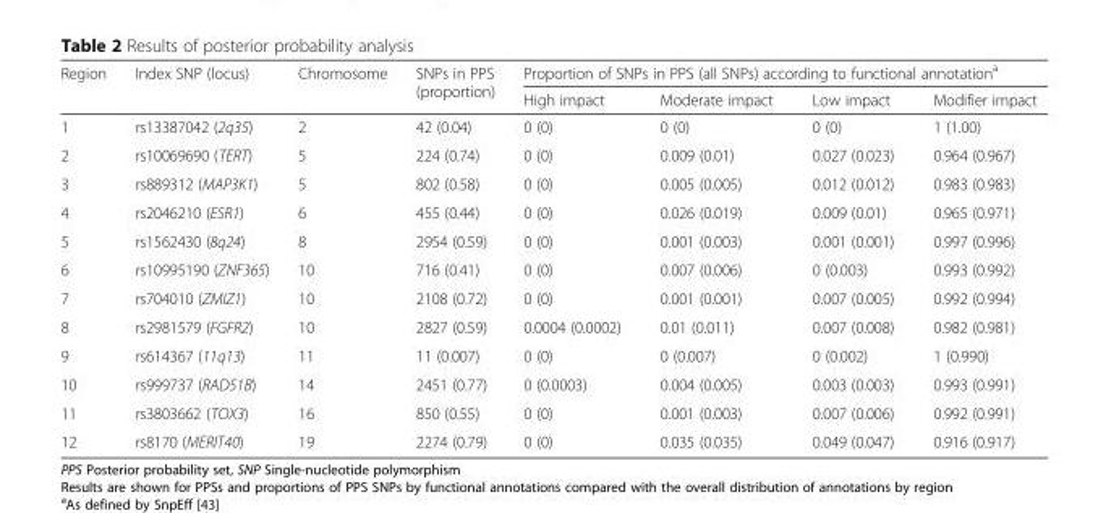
<table><thead><tr><td rowspan="2">Region</td><td rowspan="2">Index SNP (locus)</td><td rowspan="2">Chromosome</td><td rowspan="2">SNPs in PPS (proportion)</td><td colspan="4">Proportion of SNPs in PPS (all SNPs) according to functional annotation<sup>a</sup></td></tr><tr><td>High impact</td><td>Moderate impact</td><td>Low impact</td><td>Modifier impact</td></tr></thead><tbody><tr><td>1</td><td>rs13387042 (2q35)</td><td>2</td><td>42 (0.04)</td><td>0 (0)</td><td>0 (0)</td><td>0 (0)</td><td>1 (1.00)</td></tr><tr><td>2</td><td>rs10069690 (TERT)</td><td>5</td><td>224 (0.74)</td><td>0 (0)</td><td>0.009 (0.01)</td><td>0.027 (0.023)</td><td>0.964 (0.967)</td></tr><tr><td>3</td><td>rs889312 (MAP3K1)</td><td>5</td><td>802 (0.58)</td><td>0 (0)</td><td>0.005 (0.005)</td><td>0.012 (0.012)</td><td>0.983 (0.983)</td></tr><tr><td>4</td><td>rs2046210 (ESR1)</td><td>6</td><td>455 (0.44)</td><td>0 (0)</td><td>0.026 (0.019)</td><td>0.009 (0.01)</td><td>0.965 (0.971)</td></tr><tr><td>5</td><td>rs1562430 (8q24)</td><td>8</td><td>2954 (0.59)</td><td>0 (0)</td><td>0.001 (0.003)</td><td>0.001 (0.001)</td><td>0.997 (0.996)</td></tr><tr><td>6</td><td>rs10995190 (ZNF365)</td><td>10</td><td>716 (0.41)</td><td>0 (0)</td><td>0.007 (0.006)</td><td>0 (0.003)</td><td>0.993 (0.992)</td></tr><tr><td>7</td><td>rs704010 (ZMIZ1)</td><td>10</td><td>2108 (0.72)</td><td>0 (0)</td><td>0.001 (0.001)</td><td>0.007 (0.005)</td><td>0.992 (0.994)</td></tr><tr><td>8</td><td>rs2981579 (FGFR2)</td><td>10</td><td>2827 (0.59)</td><td>0.0004 (0.0002)</td><td>0.01 (0.011)</td><td>0.007 (0.008)</td><td>0.982 (0.981)</td></tr><tr><td>9</td><td>rs614367 (11q13)</td><td>11</td><td>11 (0.007)</td><td>0 (0)</td><td>0 (0.007)</td><td>0 (0.002)</td><td>1 (0.990)</td></tr><tr><td>10</td><td>rs999737 (RAD51B)</td><td>14</td><td>2451 (0.77)</td><td>0 (0.0003)</td><td>0.004 (0.005)</td><td>0.003 (0.003)</td><td>0.993 (0.991)</td></tr><tr><td>11</td><td>rs3803662 (TOX3)</td><td>16</td><td>850 (0.55)</td><td>0 (0)</td><td>0.001 (0.003)</td><td>0.007 (0.006)</td><td>0.992 (0.991)</td></tr><tr><td>12</td><td>rs8170 (MERIT40)</td><td>19</td><td>2274 (0.79)</td><td>0 (0)</td><td>0.035 (0.035)</td><td>0.049 (0.047)</td><td>0.916 (0.917)</td></tr></tbody></table>